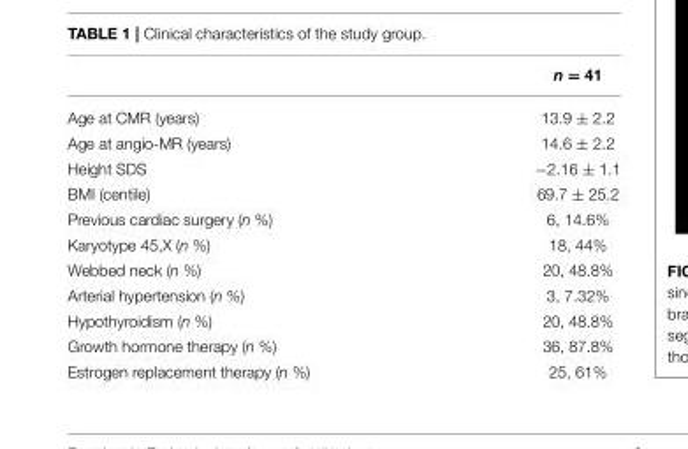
<table><thead><tr><td></td><td>n = 41</td></tr></thead><tbody><tr><td>Age at CMR (years)</td><td>13.9 ± 2.2</td></tr><tr><td>Age at angio-MR (years)</td><td>14.6 ± 2.2</td></tr><tr><td>Height SDS</td><td>−2.16 ± 1.1</td></tr><tr><td>BMI (centile)</td><td>69.7 ± 25.2</td></tr><tr><td>Previous cardiac surgery (n %)</td><td>6, 14.6%</td></tr><tr><td>Karyotype 45,X (n %)</td><td>18, 44%</td></tr><tr><td>Webbed neck (n %)</td><td>20, 48.8%</td></tr><tr><td>Arterial hypertension (n %)</td><td>3, 7.32%</td></tr><tr><td>Hypothyroidism (n %)</td><td>20, 48.8%</td></tr><tr><td>Growth hormone therapy (n %)</td><td>36, 87.8%</td></tr><tr><td>Estrogen replacement therapy (n %)</td><td>25, 61%</td></tr></tbody></table>